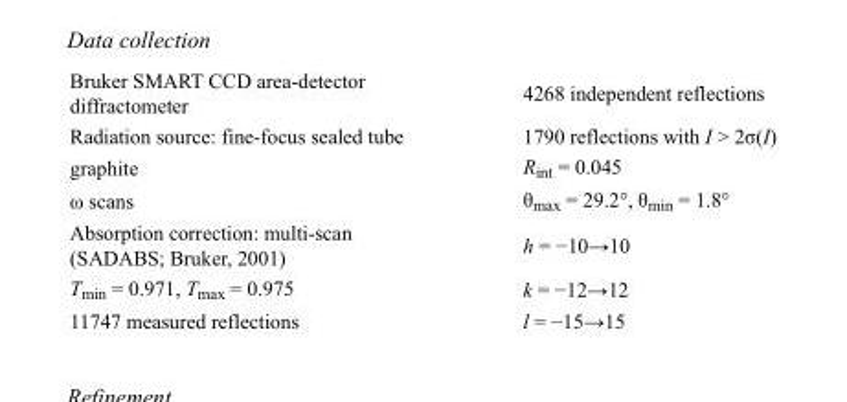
<table><tbody><tr><td>Bruker SMART CCD area-detector diffractometer</td><td>4268 independent reflections</td></tr><tr><td>Radiation source: fine-focus sealed tube</td><td>1790 reflections with I &gt; 2σ(I)</td></tr><tr><td>graphite</td><td>R<sub>int</sub> = 0.045</td></tr><tr><td>ω scans</td><td>θ<sub>max</sub> = 29.2°, θ<sub>min</sub> = 1.8°</td></tr><tr><td>Absorption correction: multi-scan (SADABS; Bruker, 2001)</td><td>h = −10→10</td></tr><tr><td>T<sub>min</sub> = 0.971, T<sub>max</sub> = 0.975</td><td>k = −12→12</td></tr><tr><td>11747 measured reflections</td><td>l = −15→15</td></tr></tbody></table>